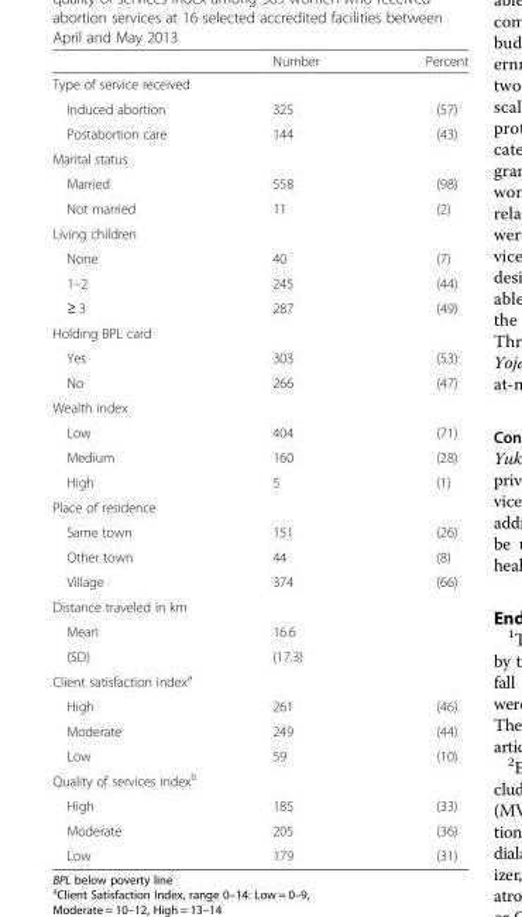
<table><thead><tr><td></td><td>Number</td><td>Percent</td></tr></thead><tbody><tr><td colspan="3">Type of service received</td></tr><tr><td>Induced abortion</td><td>325</td><td>(57)</td></tr><tr><td>Postabortion care</td><td>144</td><td>(43)</td></tr><tr><td colspan="3">Marital status</td></tr><tr><td>Married</td><td>558</td><td>(98)</td></tr><tr><td>Not married</td><td>11</td><td>(2)</td></tr><tr><td colspan="3">Living children</td></tr><tr><td>None</td><td>40</td><td>(7)</td></tr><tr><td>1–2</td><td>245</td><td>(44)</td></tr><tr><td>≥ 3</td><td>287</td><td>(49)</td></tr><tr><td colspan="3">Holding BPL card</td></tr><tr><td>Yes</td><td>303</td><td>(53)</td></tr><tr><td>No</td><td>266</td><td>(47)</td></tr><tr><td colspan="3">Wealth index</td></tr><tr><td>Low</td><td>404</td><td>(71)</td></tr><tr><td>Medium</td><td>160</td><td>(28)</td></tr><tr><td>High</td><td>5</td><td>(1)</td></tr><tr><td colspan="3">Place of residence</td></tr><tr><td>Same town</td><td>151</td><td>(26)</td></tr><tr><td>Other town</td><td>44</td><td>(8)</td></tr><tr><td>Village</td><td>374</td><td>(66)</td></tr><tr><td colspan="3">Distance traveled in km</td></tr><tr><td>Mean</td><td>16.6</td><td></td></tr><tr><td>(SD)</td><td>(17.3)</td><td></td></tr><tr><td colspan="3">Client satisfaction index<sup>a</sup></td></tr><tr><td>High</td><td>261</td><td>(46)</td></tr><tr><td>Moderate</td><td>249</td><td>(44)</td></tr><tr><td>Low</td><td>59</td><td>(10)</td></tr><tr><td colspan="3">Quality of services index<sup>b</sup></td></tr><tr><td>High</td><td>185</td><td>(33)</td></tr><tr><td>Moderate</td><td>205</td><td>(36)</td></tr><tr><td>Low</td><td>179</td><td>(31)</td></tr></tbody></table>